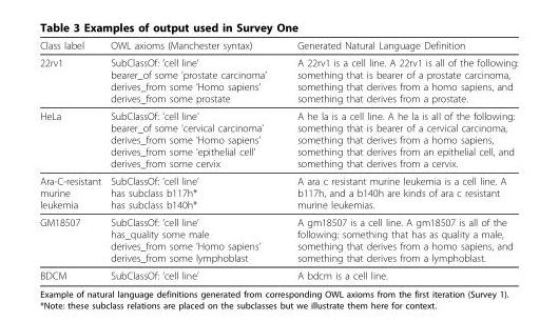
<table><thead><tr><td>Class label</td><td>OWL axioms (Manchester syntax)</td><td>Generated Natural Language Definition</td></tr></thead><tbody><tr><td>22rv1</td><td>SubClassOf: ’cell line’ bearer_of some ’prostate carcinoma’ derives_from some ’Homo sapiens’ derives_from some prostate</td><td>A 22rv1 is a cell line. A 22rv1 is all of the following: something that is bearer of a prostate carcinoma, something that derives from a homo sapiens, and something that derives from a prostate.</td></tr><tr><td>HeLa</td><td>SubClassOf: ’cell line’ bearer_of some ’cervical carcinoma’ derives_from some ’Homo sapiens’ derives_from some ’epithelial cell’ derives_from some cervix</td><td>A he la is a cell line. A he la is all of the following: something that is bearer of a cervical carcinoma, something that derives from a homo sapiens, something that derives from an epithelial cell, and something that derives from a cervix.</td></tr><tr><td>Ara-C-resistant murine leukemia</td><td>SubClassOf: ’cell line’ has subclass b117h* has subclass b140h*</td><td>A ara c resistant murine leukemia is a cell line. A b117h, and a b140h are kinds of ara c resistant murine leukemias.</td></tr><tr><td>GM18507</td><td>SubClassOf: ’cell line’ has_quality some male derives_from some ’Homo sapiens’ derives_from some lymphoblast</td><td>A gm18507 is a cell line. A gm18507 is all of the following: something that has as quality a male, something that derives from a homo sapiens, and something that derives from a lymphoblast.</td></tr><tr><td>BDCM</td><td>SubClassOf: ’cell line’</td><td>A bdcm is a cell line.</td></tr></tbody></table>